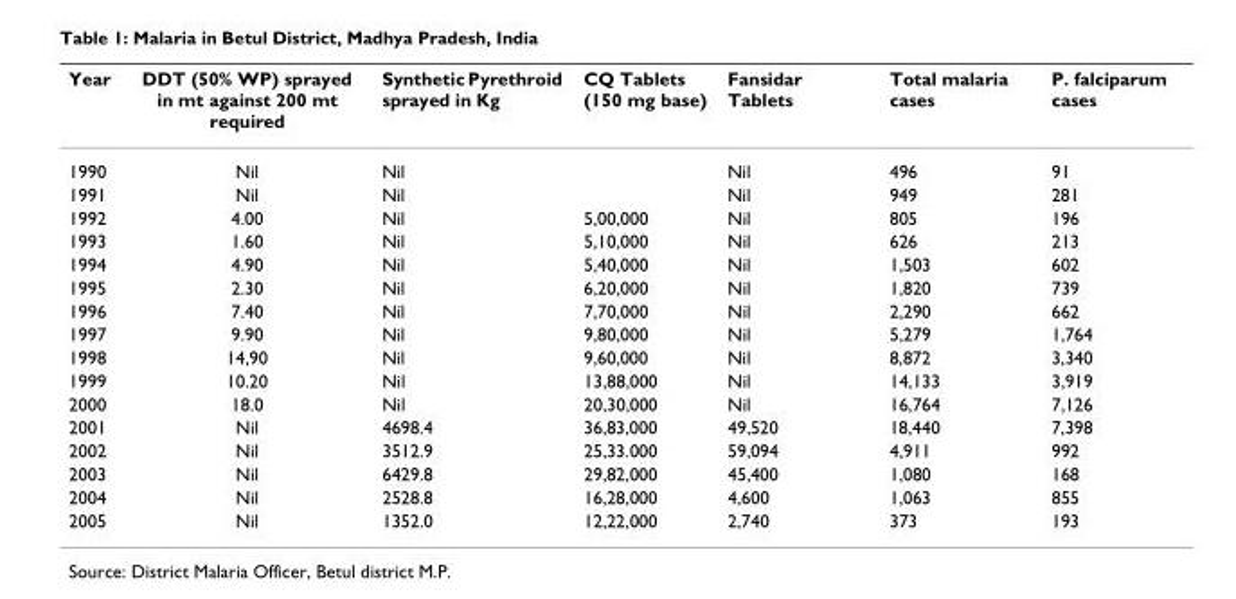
<table><thead><tr><td>Year</td><td>DDT (50% WP) sprayed in mt against 200 mt required</td><td>Synthetic Pyrethroid sprayed in Kg</td><td>CQ Tablets (150 mg base)</td><td>Fansidar Tablets</td><td>Total malaria cases</td><td>P. falciparum cases</td></tr></thead><tbody><tr><td>1990</td><td>Nil</td><td>Nil</td><td></td><td>Nil</td><td>496</td><td>91</td></tr><tr><td>1991</td><td>Nil</td><td>Nil</td><td></td><td>Nil</td><td>949</td><td>281</td></tr><tr><td>1992</td><td>4.00</td><td>Nil</td><td>5,00,000</td><td>Nil</td><td>805</td><td>196</td></tr><tr><td>1993</td><td>1.60</td><td>Nil</td><td>5,10,000</td><td>Nil</td><td>626</td><td>213</td></tr><tr><td>1994</td><td>4.90</td><td>Nil</td><td>5,40,000</td><td>Nil</td><td>1,503</td><td>602</td></tr><tr><td>1995</td><td>2.30</td><td>Nil</td><td>6,20,000</td><td>Nil</td><td>1,820</td><td>739</td></tr><tr><td>1996</td><td>7.40</td><td>Nil</td><td>7,70,000</td><td>Nil</td><td>2,290</td><td>662</td></tr><tr><td>1997</td><td>9.90</td><td>Nil</td><td>9,80,000</td><td>Nil</td><td>5,279</td><td>1,764</td></tr><tr><td>1998</td><td>14,90</td><td>Nil</td><td>9,60,000</td><td>Nil</td><td>8,872</td><td>3,340</td></tr><tr><td>1999</td><td>10.20</td><td>Nil</td><td>13,88,000</td><td>Nil</td><td>14,133</td><td>3,919</td></tr><tr><td>2000</td><td>18.0</td><td>Nil</td><td>20,30,000</td><td>Nil</td><td>16,764</td><td>7,126</td></tr><tr><td>2001</td><td>Nil</td><td>4698.4</td><td>36,83,000</td><td>49,520</td><td>18,440</td><td>7,398</td></tr><tr><td>2002</td><td>Nil</td><td>3512.9</td><td>25,33.000</td><td>59,094</td><td>4,911</td><td>992</td></tr><tr><td>2003</td><td>Nil</td><td>6429.8</td><td>29,82,000</td><td>45,400</td><td>1,080</td><td>168</td></tr><tr><td>2004</td><td>Nil</td><td>2528.8</td><td>16,28,000</td><td>4,600</td><td>1,063</td><td>855</td></tr><tr><td>2005</td><td>Nil</td><td>1352.0</td><td>12,22,000</td><td>2,740</td><td>373</td><td>193</td></tr></tbody></table>